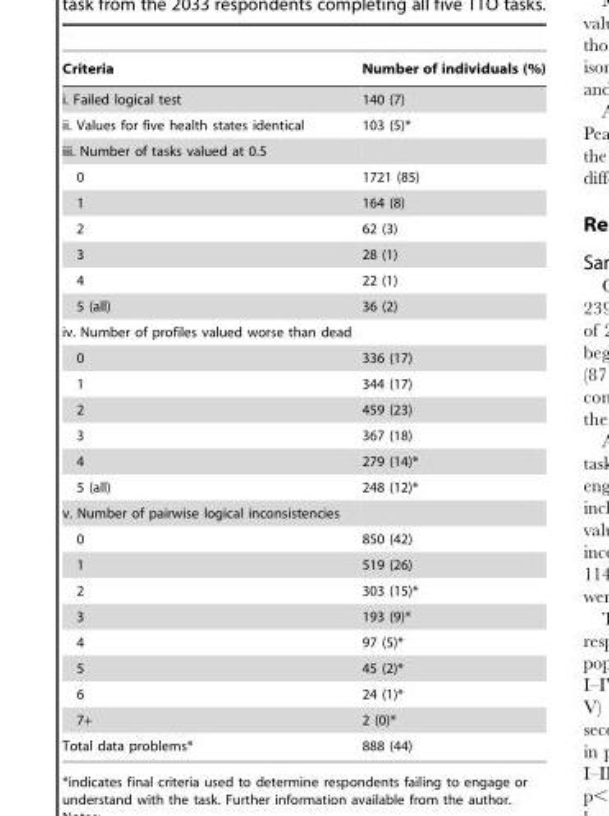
<table><thead><tr><td>Criteria</td><td>Number of individuals (%)</td></tr></thead><tbody><tr><td>i. Failed logical test</td><td>140 (7)</td></tr><tr><td>ii. Values for five health states identical</td><td>103 (5)*</td></tr><tr><td colspan="2">iii. Number of tasks valued at 0.5</td></tr><tr><td>0</td><td>1721 (85)</td></tr><tr><td>1</td><td>164 (8)</td></tr><tr><td>2</td><td>62 (3)</td></tr><tr><td>3</td><td>28 (1)</td></tr><tr><td>4</td><td>22 (1)</td></tr><tr><td>5 (all)</td><td>36 (2)</td></tr><tr><td colspan="2">iv. Number of profiles valued worse than dead</td></tr><tr><td>0</td><td>336 (17)</td></tr><tr><td>1</td><td>344 (17)</td></tr><tr><td>2</td><td>459 (23)</td></tr><tr><td>3</td><td>367 (18)</td></tr><tr><td>4</td><td>279 (14)*</td></tr><tr><td>5 (all)</td><td>248 (12)*</td></tr><tr><td colspan="2">v. Number of pairwise logical inconsistencies</td></tr><tr><td>0</td><td>850 (42)</td></tr><tr><td>1</td><td>519 (26)</td></tr><tr><td>2</td><td>303 (15)*</td></tr><tr><td>3</td><td>193 (9)*</td></tr><tr><td>4</td><td>97 (5)*</td></tr><tr><td>5</td><td>45 (2)*</td></tr><tr><td>6</td><td>24 (1)*</td></tr><tr><td>7+</td><td>2 (0)*</td></tr><tr><td>Total data problems*</td><td>888 (44)</td></tr></tbody></table>